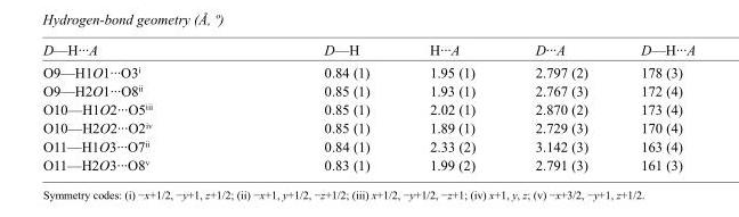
<table><tbody><tr><td>D—H···A</td><td>D—H</td><td>H···A</td><td>D···A</td><td>D—H···A</td></tr><tr><td>O9—H1O1···O3<sup>i</sup></td><td>0.84 (1)</td><td>1.95 (1)</td><td>2.797 (2)</td><td>178 (3)</td></tr><tr><td>O9—H2O1···O8<sup>ii</sup></td><td>0.85 (1)</td><td>1.93 (1)</td><td>2.767 (3)</td><td>172 (4)</td></tr><tr><td>O10—H1O2···O5<sup>iii</sup></td><td>0.85 (1)</td><td>2.02 (1)</td><td>2.870 (2)</td><td>173 (4)</td></tr><tr><td>O10—H2O2···O2<sup>iv</sup></td><td>0.85 (1)</td><td>1.89 (1)</td><td>2.729 (3)</td><td>170 (4)</td></tr><tr><td>O11—H1O3···O7<sup>ii</sup></td><td>0.84 (1)</td><td>2.33 (2)</td><td>3.142 (3)</td><td>163 (4)</td></tr><tr><td>O11—H2O3···O8<sup>v</sup></td><td>0.83 (1)</td><td>1.99 (2)</td><td>2.791 (3)</td><td>161 (3)</td></tr></tbody></table>